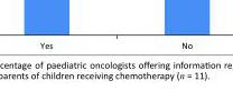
<table><tbody><tr><td>Yes</td><td>No</td></tr></tbody></table>